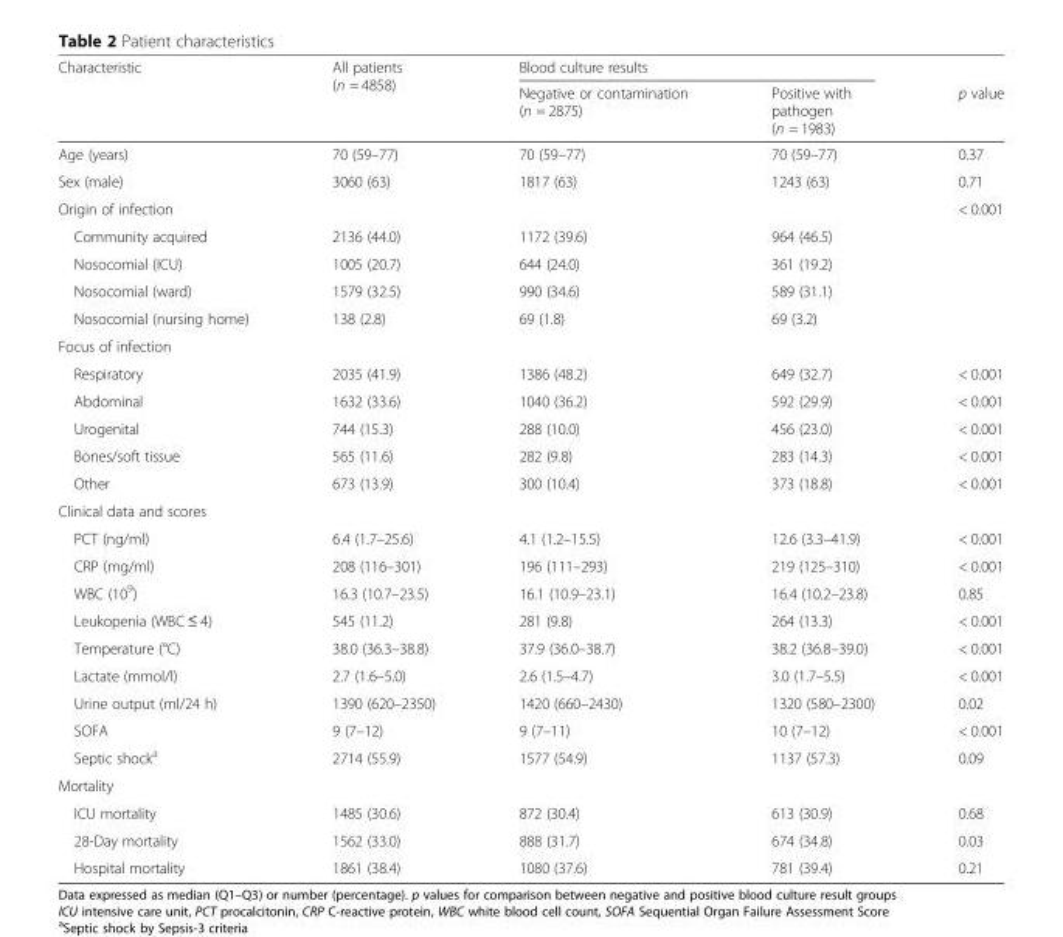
<table><thead><tr><td rowspan="2">Characteristic</td><td rowspan="2">All patients (n = 4858)</td><td colspan="2">Blood culture results</td><td rowspan="2">p value</td></tr><tr><td>Negative or contamination (n = 2875)</td><td>Positive with pathogen (n = 1983)</td></tr></thead><tbody><tr><td>Age (years)</td><td>70 (59–77)</td><td>70 (59–77)</td><td>70 (59–77)</td><td>0.37</td></tr><tr><td>Sex (male)</td><td>3060 (63)</td><td>1817 (63)</td><td>1243 (63)</td><td>0.71</td></tr><tr><td>Origin of infection</td><td></td><td></td><td></td><td>&lt; 0.001</td></tr><tr><td>Community acquired</td><td>2136 (44.0)</td><td>1172 (39.6)</td><td>964 (46.5)</td><td></td></tr><tr><td>Nosocomial (ICU)</td><td>1005 (20.7)</td><td>644 (24.0)</td><td>361 (19.2)</td><td></td></tr><tr><td>Nosocomial (ward)</td><td>1579 (32.5)</td><td>990 (34.6)</td><td>589 (31.1)</td><td></td></tr><tr><td>Nosocomial (nursing home)</td><td>138 (2.8)</td><td>69 (1.8)</td><td>69 (3.2)</td><td></td></tr><tr><td colspan="5">Focus of infection</td></tr><tr><td>Respiratory</td><td>2035 (41.9)</td><td>1386 (48.2)</td><td>649 (32.7)</td><td>&lt; 0.001</td></tr><tr><td>Abdominal</td><td>1632 (33.6)</td><td>1040 (36.2)</td><td>592 (29.9)</td><td>&lt; 0.001</td></tr><tr><td>Urogenital</td><td>744 (15.3)</td><td>288 (10.0)</td><td>456 (23.0)</td><td>&lt; 0.001</td></tr><tr><td>Bones/soft tissue</td><td>565 (11.6)</td><td>282 (9.8)</td><td>283 (14.3)</td><td>&lt; 0.001</td></tr><tr><td>Other</td><td>673 (13.9)</td><td>300 (10.4)</td><td>373 (18.8)</td><td>&lt; 0.001</td></tr><tr><td colspan="5">Clinical data and scores</td></tr><tr><td>PCT (ng/ml)</td><td>6.4 (1.7–25.6)</td><td>4.1 (1.2–15.5)</td><td>12.6 (3.3–41.9)</td><td>&lt; 0.001</td></tr><tr><td>CRP (mg/ml)</td><td>208 (116–301)</td><td>196 (111–293)</td><td>219 (125–310)</td><td>&lt; 0.001</td></tr><tr><td>WBC (10<sup>9</sup>)</td><td>16.3 (10.7–23.5)</td><td>16.1 (10.9–23.1)</td><td>16.4 (10.2–23.8)</td><td>0.85</td></tr><tr><td>Leukopenia (WBC ≤ 4)</td><td>545 (11.2)</td><td>281 (9.8)</td><td>264 (13.3)</td><td>&lt; 0.001</td></tr><tr><td>Temperature (°C)</td><td>38.0 (36.3–38.8)</td><td>37.9 (36.0–38.7)</td><td>38.2 (36.8–39.0)</td><td>&lt; 0.001</td></tr><tr><td>Lactate (mmol/l)</td><td>2.7 (1.6–5.0)</td><td>2.6 (1.5–4.7)</td><td>3.0 (1.7–5.5)</td><td>&lt; 0.001</td></tr><tr><td>Urine output (ml/24 h)</td><td>1390 (620–2350)</td><td>1420 (660–2430)</td><td>1320 (580–2300)</td><td>0.02</td></tr><tr><td>SOFA</td><td>9 (7–12)</td><td>9 (7–11)</td><td>10 (7–12)</td><td>&lt; 0.001</td></tr><tr><td>Septic shock<sup>a</sup></td><td>2714 (55.9)</td><td>1577 (54.9)</td><td>1137 (57.3)</td><td>0.09</td></tr><tr><td colspan="5">Mortality</td></tr><tr><td>ICU mortality</td><td>1485 (30.6)</td><td>872 (30.4)</td><td>613 (30.9)</td><td>0.68</td></tr><tr><td>28-Day mortality</td><td>1562 (33.0)</td><td>888 (31.7)</td><td>674 (34.8)</td><td>0.03</td></tr><tr><td>Hospital mortality</td><td>1861 (38.4)</td><td>1080 (37.6)</td><td>781 (39.4)</td><td>0.21</td></tr></tbody></table>